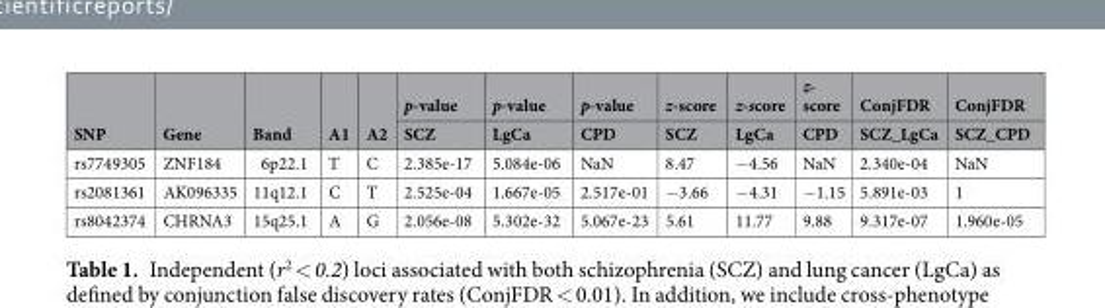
<table><thead><tr><td rowspan="2">SNP</td><td rowspan="2">Gene</td><td rowspan="2">Band</td><td rowspan="2">A1</td><td rowspan="2">A2</td><td rowspan="2">p-value SCZ</td><td rowspan="2">p-value LgCa</td><td rowspan="2">p-value CPD</td><td rowspan="2">z-score SCZ</td><td rowspan="2">z-score LgCa</td><td rowspan="2">z- score CPD</td><td rowspan="2">ConjFDR SCZ_LgCa</td><td rowspan="2">ConjFDR SCZ_CPD</td></tr><tr></tr></thead><tbody><tr><td>rs7749305</td><td>ZNF184</td><td>6p22.1</td><td>T</td><td>C</td><td>2.385e-17</td><td>5.084e-06</td><td>NaN</td><td>8.47</td><td>−4.56</td><td>NaN</td><td>2.340e-04</td><td>NaN</td></tr><tr><td>rs2081361</td><td>AK096335</td><td>11q12.1</td><td>C</td><td>T</td><td>2.525e-04</td><td>1.667e-05</td><td>2.517e-01</td><td>−3.66</td><td>−4.31</td><td>−1.15</td><td>5.891e-03</td><td>1</td></tr><tr><td>rs8042374</td><td>CHRNA3</td><td>15q25.1</td><td>A</td><td>G</td><td>2.056e-08</td><td>5.302e-32</td><td>5.067e-23</td><td>5.61</td><td>11.77</td><td>9.88</td><td>9.317e-07</td><td>1.960e-05</td></tr></tbody></table>